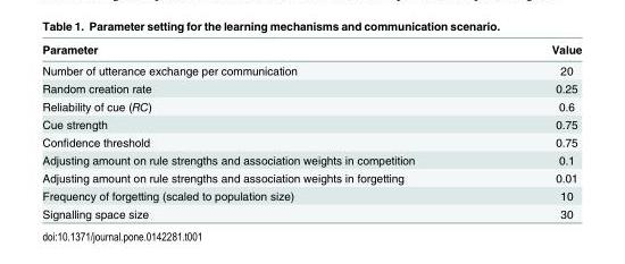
<table><thead><tr><td>Parameter</td><td>Value</td></tr></thead><tbody><tr><td>Number of utterance exchange per communication</td><td>20</td></tr><tr><td>Random creation rate</td><td>0.25</td></tr><tr><td>Reliability of cue (RC)</td><td>0.6</td></tr><tr><td>Cue strength</td><td>0.75</td></tr><tr><td>Confidence threshold</td><td>0.75</td></tr><tr><td>Adjusting amount on rule strengths and association weights in competition</td><td>0.1</td></tr><tr><td>Adjusting amount on rule strengths and association weights in forgetting</td><td>0.01</td></tr><tr><td>Frequency of forgetting (scaled to population size)</td><td>10</td></tr><tr><td>Signalling space size</td><td>30</td></tr></tbody></table>